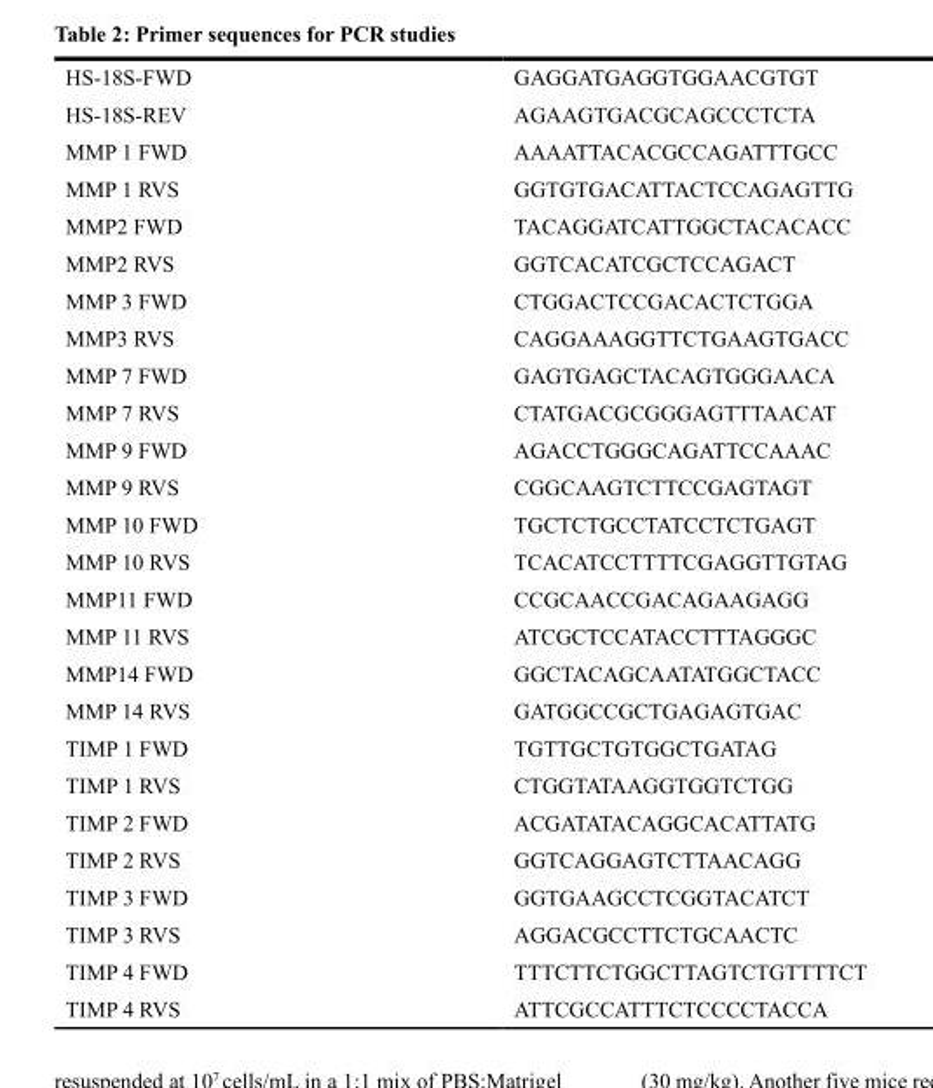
<table><tbody><tr><td>HS-18S-FWD</td><td>GAGGATGAGGTGGAACGTGT</td></tr><tr><td>HS-18S-REV</td><td>AGAAGTGACGCAGCCCTCTA</td></tr><tr><td>MMP 1 FWD</td><td>AAAATTACACGCCAGATTTGCC</td></tr><tr><td>MMP 1 RVS</td><td>GGTGTGACATTACTCCAGAGTTG</td></tr><tr><td>MMP2 FWD</td><td>TACAGGATCATTGGCTACACACC</td></tr><tr><td>MMP2 RVS</td><td>GGTCACATCGCTCCAGACT</td></tr><tr><td>MMP 3 FWD</td><td>CTGGACTCCGACACTCTGGA</td></tr><tr><td>MMP3 RVS</td><td>CAGGAAAGGTTCTGAAGTGACC</td></tr><tr><td>MMP 7 FWD</td><td>GAGTGAGCTACAGTGGGAACA</td></tr><tr><td>MMP 7 RVS</td><td>CTATGACGCGGGAGTTTAACAT</td></tr><tr><td>MMP 9 FWD</td><td>AGACCTGGGCAGATTCCAAAC</td></tr><tr><td>MMP 9 RVS</td><td>CGGCAAGTCTTCCGAGTAGT</td></tr><tr><td>MMP 10 FWD</td><td>TGCTCTGCCTATCCTCTGAGT</td></tr><tr><td>MMP 10 RVS</td><td>TCACATCCTTTTCGAGGTTGTAG</td></tr><tr><td>MMP11 FWD</td><td>CCGCAACCGACAGAAGAGG</td></tr><tr><td>MMP 11 RVS</td><td>ATCGCTCCATACCTTTAGGGC</td></tr><tr><td>MMP14 FWD</td><td>GGCTACAGCAATATGGCTACC</td></tr><tr><td>MMP 14 RVS</td><td>GATGGCCGCTGAGAGTGAC</td></tr><tr><td>TIMP 1 FWD</td><td>TGTTGCTGTGGCTGATAG</td></tr><tr><td>TIMP 1 RVS</td><td>CTGGTATAAGGTGGTCTGG</td></tr><tr><td>TIMP 2 FWD</td><td>ACGATATACAGGCACATTATG</td></tr><tr><td>TIMP 2 RVS</td><td>GGTCAGGAGTCTTAACAGG</td></tr><tr><td>TIMP 3 FWD</td><td>GGTGAAGCCTCGGTACATCT</td></tr><tr><td>TIMP 3 RVS</td><td>AGGACGCCTTCTGCAACTC</td></tr><tr><td>TIMP 4 FWD</td><td>TTTCTTCTGGCTTAGTCTGTTTTCT</td></tr><tr><td>TIMP 4 RVS</td><td>ATTCGCCATTTCTCCCCTACCA</td></tr></tbody></table>